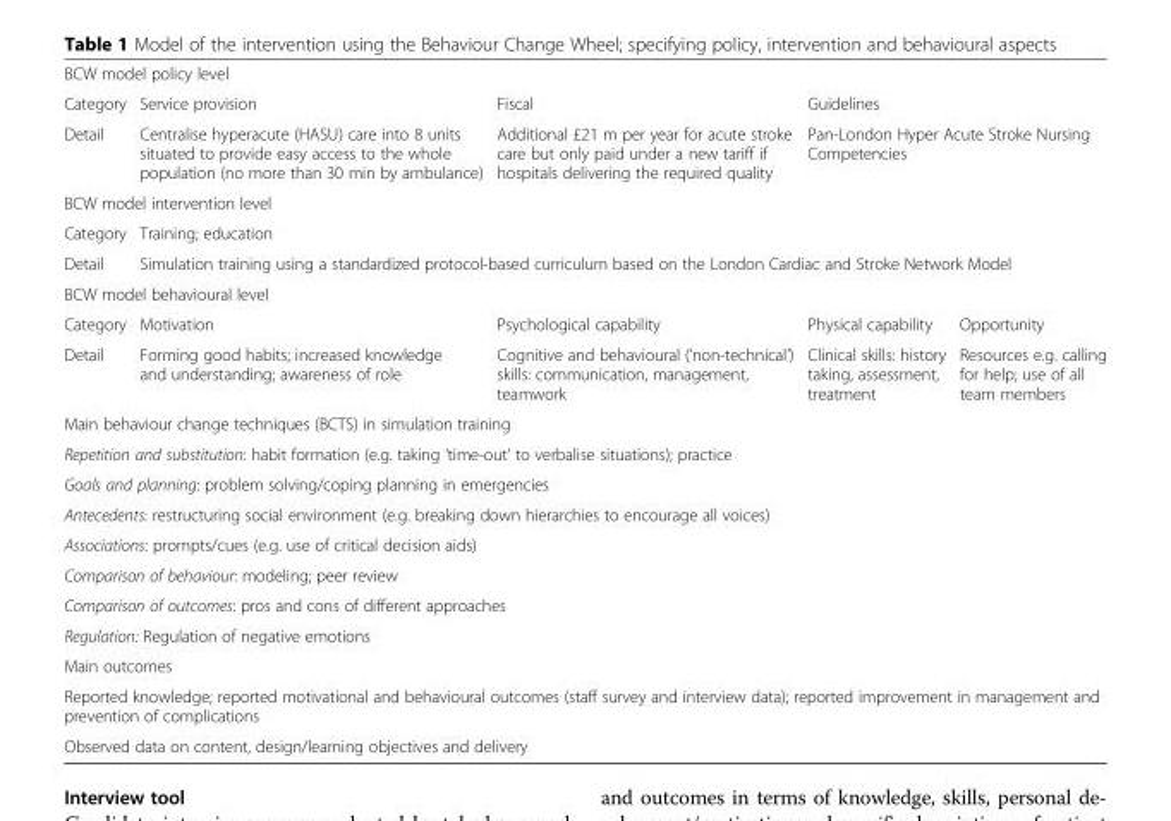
<table><tbody><tr><td colspan="5">BCW model policy level</td></tr><tr><td>Category</td><td>Service provision</td><td>Fiscal</td><td colspan="2">Guidelines</td></tr><tr><td>Detail</td><td>Centralise hyperacute (HASU) care into 8 units situated to provide easy access to the whole population (no more than 30 min by ambulance)</td><td>Additional £21 m per year for acute stroke care but only paid under a new tariff if hospitals delivering the required quality</td><td colspan="2">Pan-London Hyper Acute Stroke Nursing Competencies</td></tr><tr><td colspan="5">BCW model intervention level</td></tr><tr><td>Category</td><td colspan="4">Training; education</td></tr><tr><td>Detail</td><td colspan="4">Simulation training using a standardized protocol-based curriculum based on the London Cardiac and Stroke Network Model</td></tr><tr><td colspan="5">BCW model behavioural level</td></tr><tr><td>Category</td><td>Motivation</td><td>Psychological capability</td><td>Physical capability</td><td>Opportunity</td></tr><tr><td>Detail</td><td>Forming good habits; increased knowledge and understanding; awareness of role</td><td>Cognitive and behavioural (‘non-technical’) skills: communication, management, teamwork</td><td>Clinical skills: history taking, assessment, treatment</td><td>Resources e.g. calling for help; use of all team members</td></tr><tr><td colspan="5">Main behaviour change techniques (BCTS) in simulation training</td></tr><tr><td colspan="5">Repetition and substitution: habit formation (e.g. taking ‘time-out’ to verbalise situations); practice</td></tr><tr><td colspan="5">Goals and planning: problem solving/coping planning in emergencies</td></tr><tr><td colspan="5">Antecedents: restructuring social environment (e.g. breaking down hierarchies to encourage all voices)</td></tr><tr><td colspan="5">Associations: prompts/cues (e.g. use of critical decision aids)</td></tr><tr><td colspan="5">Comparison of behaviour: modeling; peer review</td></tr><tr><td colspan="5">Comparison of outcomes: pros and cons of different approaches</td></tr><tr><td colspan="5">Regulation: Regulation of negative emotions</td></tr><tr><td colspan="5">Main outcomes</td></tr><tr><td colspan="5">Reported knowledge; reported motivational and behavioural outcomes (staff survey and interview data); reported improvement in management and prevention of complications</td></tr><tr><td colspan="5">Observed data on content, design/learning objectives and delivery</td></tr></tbody></table>